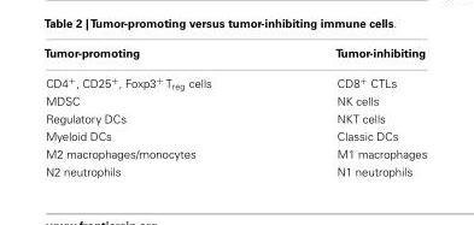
<table><thead><tr><td>Tumor-promoting</td><td>Tumor-inhibiting</td></tr></thead><tbody><tr><td>CD4<sup>+</sup>, CD25<sup>+</sup>, Foxp3<sup>+</sup> T<sub>reg</sub> cells</td><td>CD8<sup>+</sup> CTLs</td></tr><tr><td>MDSC</td><td>NK cells</td></tr><tr><td>Regulatory DCs</td><td>NKT cells</td></tr><tr><td>Myeloid DCs</td><td>Classic DCs</td></tr><tr><td>M2 macrophages/monocytes</td><td>M1 macrophages</td></tr><tr><td>N2 neutrophils</td><td>N1 neutrophils</td></tr></tbody></table>